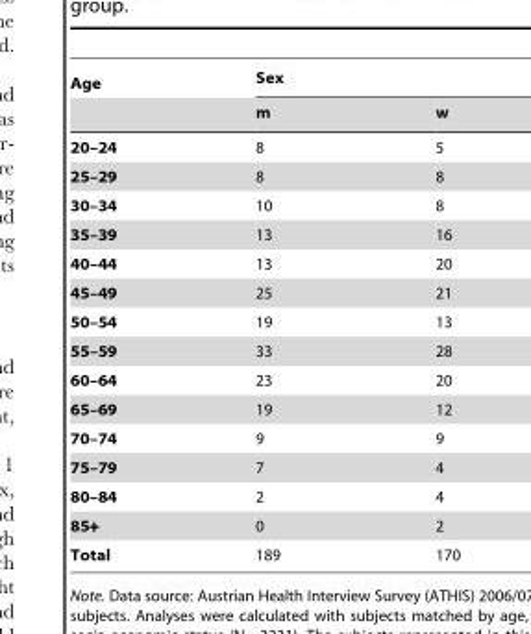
<table><thead><tr><td rowspan="2">Age</td><td colspan="2">Sex</td></tr><tr><td>m</td><td>w</td></tr></thead><tbody><tr><td>20–24</td><td>8</td><td>5</td></tr><tr><td>25–29</td><td>8</td><td>8</td></tr><tr><td>30–34</td><td>10</td><td>8</td></tr><tr><td>35–39</td><td>13</td><td>16</td></tr><tr><td>40–44</td><td>13</td><td>20</td></tr><tr><td>45–49</td><td>25</td><td>21</td></tr><tr><td>50–54</td><td>19</td><td>13</td></tr><tr><td>55–59</td><td>33</td><td>28</td></tr><tr><td>60–64</td><td>23</td><td>20</td></tr><tr><td>65–69</td><td>19</td><td>12</td></tr><tr><td>70–74</td><td>9</td><td>9</td></tr><tr><td>75–79</td><td>7</td><td>4</td></tr><tr><td>80–84</td><td>2</td><td>4</td></tr><tr><td>85+</td><td>0</td><td>2</td></tr><tr><td>Total</td><td>189</td><td>170</td></tr></tbody></table>